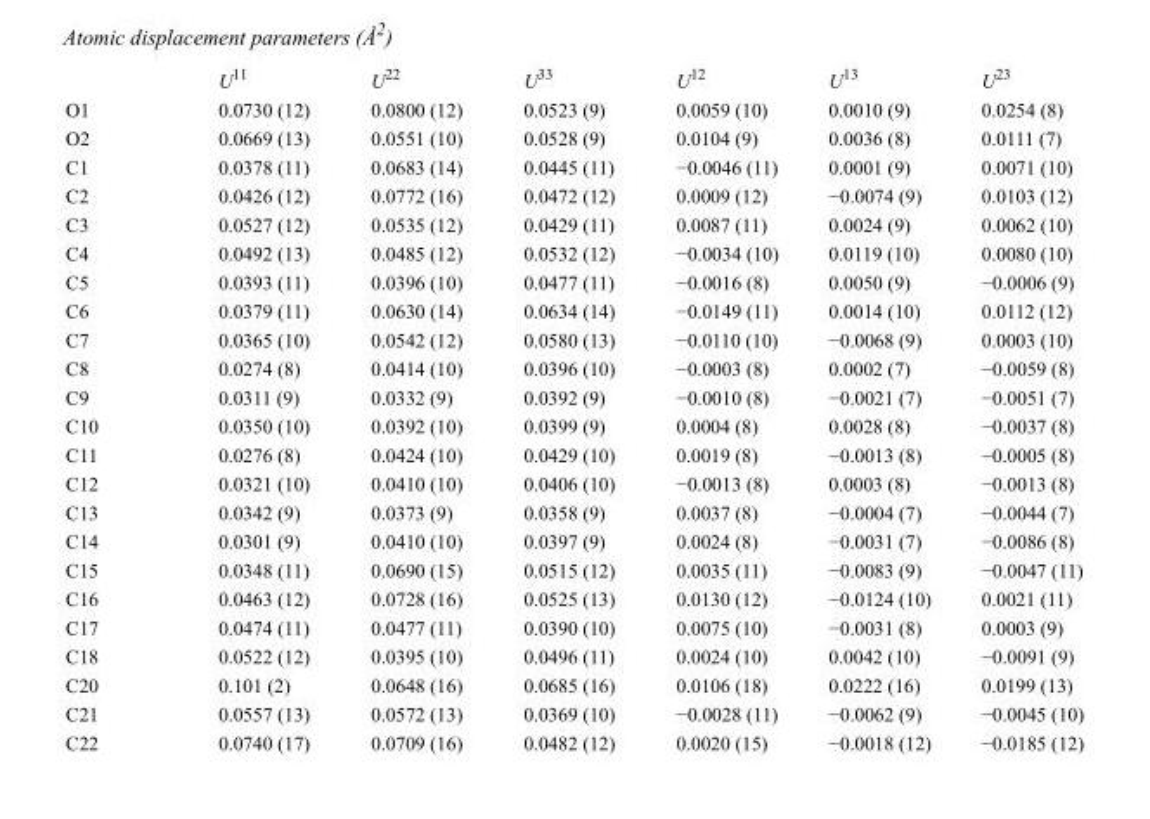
<table><thead><tr><td></td><td>U<sup>11</sup></td><td>U<sup>22</sup></td><td>U<sup>33</sup></td><td>U<sup>12</sup></td><td>U<sup>13</sup></td><td>U<sup>23</sup></td></tr></thead><tbody><tr><td>O1</td><td>0.0730 (12)</td><td>0.0800 (12)</td><td>0.0523 (9)</td><td>0.0059 (10)</td><td>0.0010 (9)</td><td>0.0254 (8)</td></tr><tr><td>O2</td><td>0.0669 (13)</td><td>0.0551 (10)</td><td>0.0528 (9)</td><td>0.0104 (9)</td><td>0.0036 (8)</td><td>0.0111 (7)</td></tr><tr><td>C1</td><td>0.0378 (11)</td><td>0.0683 (14)</td><td>0.0445 (11)</td><td>−0.0046 (11)</td><td>0.0001 (9)</td><td>0.0071 (10)</td></tr><tr><td>C2</td><td>0.0426 (12)</td><td>0.0772 (16)</td><td>0.0472 (12)</td><td>0.0009 (12)</td><td>−0.0074 (9)</td><td>0.0103 (12)</td></tr><tr><td>C3</td><td>0.0527 (12)</td><td>0.0535 (12)</td><td>0.0429 (11)</td><td>0.0087 (11)</td><td>0.0024 (9)</td><td>0.0062 (10)</td></tr><tr><td>C4</td><td>0.0492 (13)</td><td>0.0485 (12)</td><td>0.0532 (12)</td><td>−0.0034 (10)</td><td>0.0119 (10)</td><td>0.0080 (10)</td></tr><tr><td>C5</td><td>0.0393 (11)</td><td>0.0396 (10)</td><td>0.0477 (11)</td><td>−0.0016 (8)</td><td>0.0050 (9)</td><td>−0.0006 (9)</td></tr><tr><td>C6</td><td>0.0379 (11)</td><td>0.0630 (14)</td><td>0.0634 (14)</td><td>−0.0149 (11)</td><td>0.0014 (10)</td><td>0.0112 (12)</td></tr><tr><td>C7</td><td>0.0365 (10)</td><td>0.0542 (12)</td><td>0.0580 (13)</td><td>−0.0110 (10)</td><td>−0.0068 (9)</td><td>0.0003 (10)</td></tr><tr><td>C8</td><td>0.0274 (8)</td><td>0.0414 (10)</td><td>0.0396 (10)</td><td>−0.0003 (8)</td><td>0.0002 (7)</td><td>−0.0059 (8)</td></tr><tr><td>C9</td><td>0.0311 (9)</td><td>0.0332 (9)</td><td>0.0392 (9)</td><td>−0.0010 (8)</td><td>−0.0021 (7)</td><td>−0.0051 (7)</td></tr><tr><td>C10</td><td>0.0350 (10)</td><td>0.0392 (10)</td><td>0.0399 (9)</td><td>0.0004 (8)</td><td>0.0028 (8)</td><td>−0.0037 (8)</td></tr><tr><td>C11</td><td>0.0276 (8)</td><td>0.0424 (10)</td><td>0.0429 (10)</td><td>0.0019 (8)</td><td>−0.0013 (8)</td><td>−0.0005 (8)</td></tr><tr><td>C12</td><td>0.0321 (10)</td><td>0.0410 (10)</td><td>0.0406 (10)</td><td>−0.0013 (8)</td><td>0.0003 (8)</td><td>−0.0013 (8)</td></tr><tr><td>C13</td><td>0.0342 (9)</td><td>0.0373 (9)</td><td>0.0358 (9)</td><td>0.0037 (8)</td><td>−0.0004 (7)</td><td>−0.0044 (7)</td></tr><tr><td>C14</td><td>0.0301 (9)</td><td>0.0410 (10)</td><td>0.0397 (9)</td><td>0.0024 (8)</td><td>−0.0031 (7)</td><td>−0.0086 (8)</td></tr><tr><td>C15</td><td>0.0348 (11)</td><td>0.0690 (15)</td><td>0.0515 (12)</td><td>0.0035 (11)</td><td>−0.0083 (9)</td><td>−0.0047 (11)</td></tr><tr><td>C16</td><td>0.0463 (12)</td><td>0.0728 (16)</td><td>0.0525 (13)</td><td>0.0130 (12)</td><td>−0.0124 (10)</td><td>0.0021 (11)</td></tr><tr><td>C17</td><td>0.0474 (11)</td><td>0.0477 (11)</td><td>0.0390 (10)</td><td>0.0075 (10)</td><td>−0.0031 (8)</td><td>0.0003 (9)</td></tr><tr><td>C18</td><td>0.0522 (12)</td><td>0.0395 (10)</td><td>0.0496 (11)</td><td>0.0024 (10)</td><td>0.0042 (10)</td><td>−0.0091 (9)</td></tr><tr><td>C20</td><td>0.101 (2)</td><td>0.0648 (16)</td><td>0.0685 (16)</td><td>0.0106 (18)</td><td>0.0222 (16)</td><td>0.0199 (13)</td></tr><tr><td>C21</td><td>0.0557 (13)</td><td>0.0572 (13)</td><td>0.0369 (10)</td><td>−0.0028 (11)</td><td>−0.0062 (9)</td><td>−0.0045 (10)</td></tr><tr><td>C22</td><td>0.0740 (17)</td><td>0.0709 (16)</td><td>0.0482 (12)</td><td>0.0020 (15)</td><td>−0.0018 (12)</td><td>−0.0185 (12)</td></tr></tbody></table>